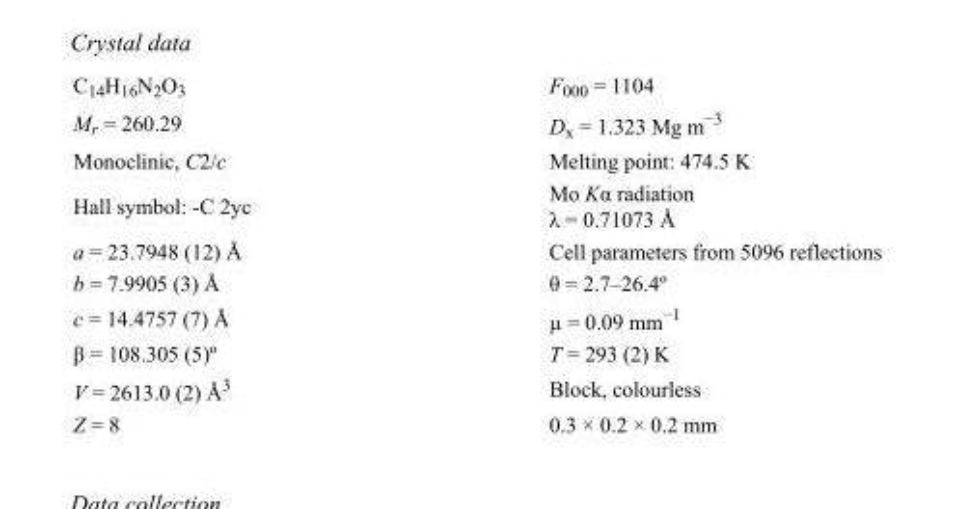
<table><tbody><tr><td>C<sub>14</sub>H<sub>16</sub>N<sub>2</sub>O<sub>3</sub></td><td>F000 = 1104</td></tr><tr><td>M<sub>r</sub> = 260.29</td><td>D<sub>x</sub> = 1.323 Mg m<sup>−3</sup></td></tr><tr><td>Monoclinic, C2/c</td><td>Melting point: 474.5 K</td></tr><tr><td>Hall symbol: -C 2yc</td><td>Mo Kα radiation λ = 0.71073 Å</td></tr><tr><td>a = 23.7948 (12) Å</td><td>Cell parameters from 5096 reflections</td></tr><tr><td>b = 7.9905 (3) Å</td><td>θ = 2.7–26.4º</td></tr><tr><td>c = 14.4757 (7) Å</td><td>µ = 0.09 mm<sup>−1</sup></td></tr><tr><td>β = 108.305 (5)º</td><td>T = 293 (2) K</td></tr><tr><td>V = 2613.0 (2) Å<sup>3</sup></td><td>Block, colourless</td></tr><tr><td>Z = 8</td><td>0.3 × 0.2 × 0.2 mm</td></tr></tbody></table>